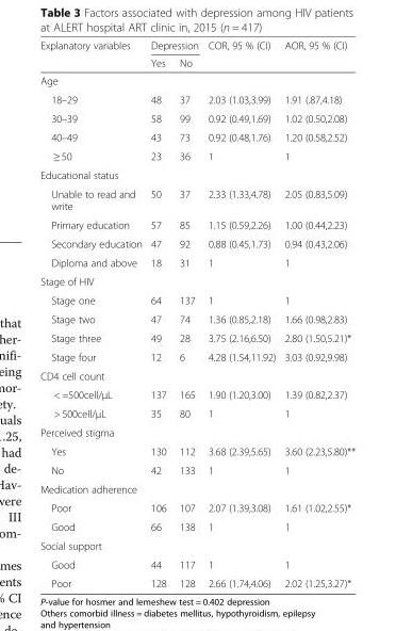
<table><thead><tr><td rowspan="2">Explanatory variables</td><td colspan="2">Depression</td><td rowspan="2">COR, 95 % (CI)</td><td rowspan="2">AOR, 95 % (CI)</td></tr><tr><td>Yes</td><td>No</td></tr></thead><tbody><tr><td colspan="5">Age</td></tr><tr><td>18–29</td><td>48</td><td>37</td><td>2.03 (1.03,3.99)</td><td>1.91 (.87,4.18)</td></tr><tr><td>30–39</td><td>58</td><td>99</td><td>0.92 (0.49,1.69)</td><td>1.02 (0.50,2.08)</td></tr><tr><td>40–49</td><td>43</td><td>73</td><td>0.92 (0.48,1.76)</td><td>1.20 (0.58,2.52)</td></tr><tr><td>≥ 50</td><td>23</td><td>36</td><td>1</td><td>1</td></tr><tr><td colspan="5">Educational status</td></tr><tr><td>Unable to read and write</td><td>50</td><td>37</td><td>2.33 (1.33,4.78)</td><td>2.05 (0.83,5.09)</td></tr><tr><td>Primary education</td><td>57</td><td>85</td><td>1.15 (0.59,2.26)</td><td>1.00 (0.44,2.23)</td></tr><tr><td>Secondary education</td><td>47</td><td>92</td><td>0.88 (0.45,1.73)</td><td>0.94 (0.43,2.06)</td></tr><tr><td>Diploma and above</td><td>18</td><td>31</td><td>1</td><td>1</td></tr><tr><td colspan="5">Stage of HIV</td></tr><tr><td>Stage one</td><td>64</td><td>137</td><td>1</td><td>1</td></tr><tr><td>Stage two</td><td>47</td><td>74</td><td>1.36 (0.85,2.18)</td><td>1.66 (0.98,2.83)</td></tr><tr><td>Stage three</td><td>49</td><td>28</td><td>3.75 (2.16,6.50)</td><td>2.80 (1.50,5.21)*</td></tr><tr><td>Stage four</td><td>12</td><td>6</td><td>4.28 (1.54,11.92)</td><td>3.03 (0.92,9.98)</td></tr><tr><td colspan="5">CD4 cell count</td></tr><tr><td>&lt; =500cell/μL</td><td>137</td><td>165</td><td>1.90 (1.20,3.00)</td><td>1.39 (0.82,2.37)</td></tr><tr><td>&gt; 500cell/μL</td><td>35</td><td>80</td><td>1</td><td>1</td></tr><tr><td colspan="5">Perceived stigma</td></tr><tr><td>Yes</td><td>130</td><td>112</td><td>3.68 (2.39,5.65)</td><td>3.60 (2.23,5.80)**</td></tr><tr><td>No</td><td>42</td><td>133</td><td>1</td><td>1</td></tr><tr><td colspan="5">Medication adherence</td></tr><tr><td>Poor</td><td>106</td><td>107</td><td>2.07 (1.39,3.08)</td><td>1.61 (1.02,2.55)*</td></tr><tr><td>Good</td><td>66</td><td>138</td><td>1</td><td>1</td></tr><tr><td colspan="5">Social support</td></tr><tr><td>Good</td><td>44</td><td>117</td><td>1</td><td>1</td></tr><tr><td>Poor</td><td>128</td><td>128</td><td>2.66 (1.74,4.06)</td><td>2.02 (1.25,3.27)*</td></tr></tbody></table>